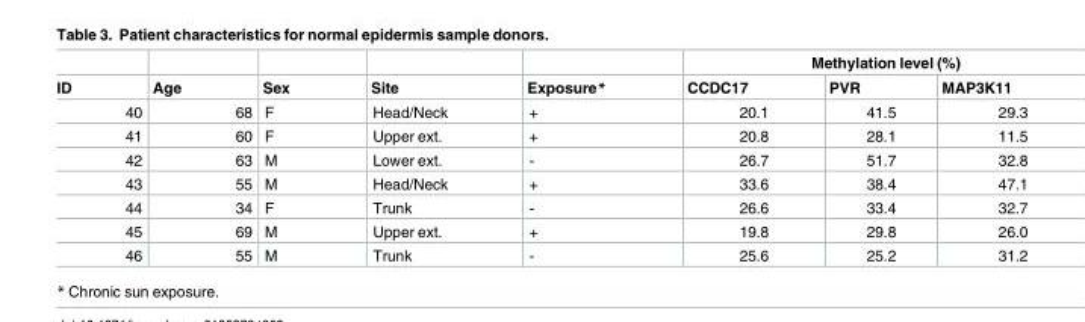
<table><thead><tr><td rowspan="2">ID</td><td rowspan="2">Age</td><td rowspan="2">Sex</td><td rowspan="2">Site</td><td rowspan="2">Exposure*</td><td colspan="3">Methylation level (%)</td></tr><tr><td>CCDC17</td><td>PVR</td><td>MAP3K11</td></tr></thead><tbody><tr><td>40</td><td>68</td><td>F</td><td>Head/Neck</td><td>+</td><td>20.1</td><td>41.5</td><td>29.3</td></tr><tr><td>41</td><td>60</td><td>F</td><td>Upper ext.</td><td>+</td><td>20.8</td><td>28.1</td><td>11.5</td></tr><tr><td>42</td><td>63</td><td>M</td><td>Lower ext.</td><td>-</td><td>26.7</td><td>51.7</td><td>32.8</td></tr><tr><td>43</td><td>55</td><td>M</td><td>Head/Neck</td><td>+</td><td>33.6</td><td>38.4</td><td>47.1</td></tr><tr><td>44</td><td>34</td><td>F</td><td>Trunk</td><td>-</td><td>26.6</td><td>33.4</td><td>32.7</td></tr><tr><td>45</td><td>69</td><td>M</td><td>Upper ext.</td><td>+</td><td>19.8</td><td>29.8</td><td>26.0</td></tr><tr><td>46</td><td>55</td><td>M</td><td>Trunk</td><td>-</td><td>25.6</td><td>25.2</td><td>31.2</td></tr></tbody></table>